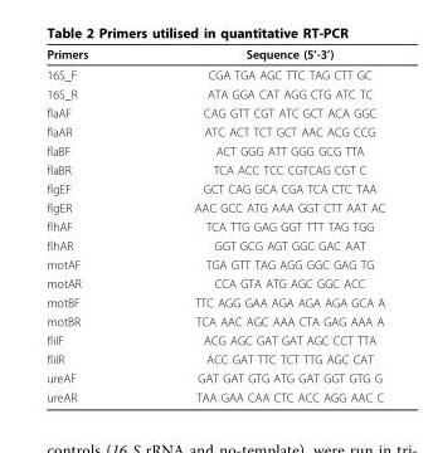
<table><thead><tr><td>Primers</td><td>Sequence (5’-3’)</td></tr></thead><tbody><tr><td>16S_F</td><td>CGA TGA AGC TTC TAG CTT GC</td></tr><tr><td>16S_R</td><td>ATA GGA CAT AGG CTG ATC TC</td></tr><tr><td>flaAF</td><td>CAG GTT CGT ATC GCT ACA GGC</td></tr><tr><td>flaAR</td><td>ATC ACT TCT GCT AAC ACG CCG</td></tr><tr><td>flaBF</td><td>ACT GGG ATT GGG GCG TTA</td></tr><tr><td>flaBR</td><td>TCA ACC TCC CGTCAG CGT C</td></tr><tr><td>flgEF</td><td>GCT CAG GCA CGA TCA CTC TAA</td></tr><tr><td>flgER</td><td>AAC GCC ATG AAA GGT CTT AAT AC</td></tr><tr><td>flhAF</td><td>TCA TTG GAG GGT TTT TAG TGG</td></tr><tr><td>flhAR</td><td>GGT GCG AGT GGC GAC AAT</td></tr><tr><td>motAF</td><td>TGA GTT TAG AGG GGC GAG TG</td></tr><tr><td>motAR</td><td>CCA GTA ATG AGC GGC ACC</td></tr><tr><td>motBF</td><td>TTC AGG GAA AGA AGA AGA GCA A</td></tr><tr><td>motBR</td><td>TCA AAC AGC AAA CTA GAG AAA A</td></tr><tr><td>fliIF</td><td>ACG AGC GAT GAT AGC CCT TTA</td></tr><tr><td>fliIR</td><td>ACC GAT TTC TCT TTG AGC CAT</td></tr><tr><td>ureAF</td><td>GAT GAT GTG ATG GAT GGT GTG G</td></tr><tr><td>ureAR</td><td>TAA GAA CAA CTC ACC AGG AAC C</td></tr></tbody></table>